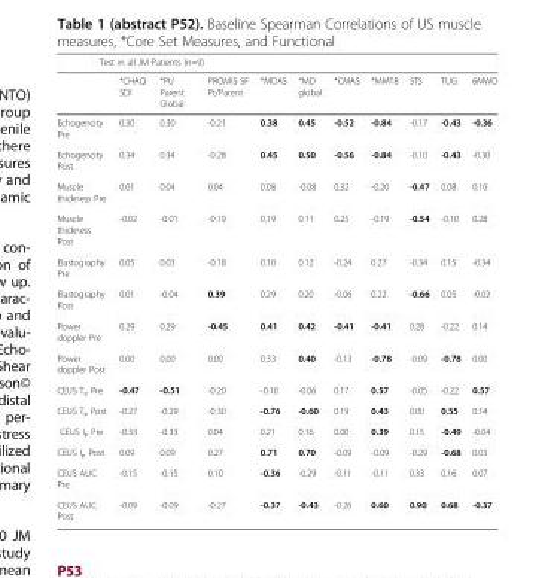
<table><thead><tr><td colspan="11">Test in all JM Patients (n=9)</td></tr><tr><td></td><td>*CHAQ SDI</td><td>*Pt/ Parent Global</td><td>PROMIS SF Pt/Parent</td><td>*MDAS</td><td>*MD global</td><td>*CMAS</td><td>*MMT8</td><td>STS</td><td>TUG</td><td>6MWD</td></tr></thead><tbody><tr><td>Echogencity Pre</td><td>0.30</td><td>0.30</td><td>-0.21</td><td>0.38</td><td>0.45</td><td>-0.52</td><td>-0.84</td><td>-0.17</td><td>-0.43</td><td>-0.36</td></tr><tr><td>Echogencity Post</td><td>0.34</td><td>0.34</td><td>-0.28</td><td>0.45</td><td>0.50</td><td>-0.56</td><td>-0.84</td><td>-0.10</td><td>-0.43</td><td>-0.30</td></tr><tr><td>Muscle thickness Pre</td><td>0.01</td><td>0.04</td><td>0.04</td><td>0.08</td><td>-0.08</td><td>0.32</td><td>-0.20</td><td>-0.47</td><td>0.08</td><td>0.10</td></tr><tr><td>Muscle thickness Post</td><td>-0.02</td><td>-0.01</td><td>-0.19</td><td>0.19</td><td>0.11</td><td>0.25</td><td>-0.19</td><td>-0.54</td><td>-0.10</td><td>0.28</td></tr><tr><td>Elastography Pre</td><td>0.05</td><td>0.03</td><td>-0.18</td><td>0.10</td><td>0.12</td><td>-0.24</td><td>0.27</td><td>-0.34</td><td>0.15</td><td>-0.34</td></tr><tr><td>Elastography Post</td><td>0.01</td><td>-0.04</td><td>0.39</td><td>0.29</td><td>0.20</td><td>-0.06</td><td>0.22</td><td>-0.66</td><td>0.05</td><td>-0.02</td></tr><tr><td>Power doppler Pre</td><td>0.29</td><td>0.29</td><td>-0.45</td><td>0.41</td><td>0.42</td><td>-0.41</td><td>-0.41</td><td>0.28</td><td>-0.22</td><td>0.14</td></tr><tr><td>Power doppler Post</td><td>0.00</td><td>0.00</td><td>0.00</td><td>0.33</td><td>0.40</td><td>-0.13</td><td>-0.78</td><td>-0.09</td><td>-0.78</td><td>0.00</td></tr><tr><td>CEUS T<sub>p</sub> Pre</td><td>-0.47</td><td>-0.51</td><td>-0.20</td><td>-0.10</td><td>-0.06</td><td>0.17</td><td>0.57</td><td>-0.05</td><td>-0.22</td><td>0.57</td></tr><tr><td>CEUS T<sub>p</sub> Post</td><td>-0.27</td><td>-0.29</td><td>-0.30</td><td>-0.76</td><td>-0.60</td><td>0.19</td><td>0.43</td><td>0.00</td><td>0.55</td><td>0.14</td></tr><tr><td>CEUS I<sub>p</sub> Pre</td><td>-0.33</td><td>-0.33</td><td>0.04</td><td>0.21</td><td>0.16</td><td>0.00</td><td>0.39</td><td>0.15</td><td>-0.49</td><td>-0.04</td></tr><tr><td>CEUS I<sub>p</sub> Post</td><td>0.09</td><td>0.09</td><td>0.27</td><td>0.71</td><td>0.70</td><td>-0.09</td><td>-0.09</td><td>-0.29</td><td>-0.68</td><td>0.03</td></tr><tr><td>CEUS AUC Pre</td><td>-0.15</td><td>-0.15</td><td>0.10</td><td>-0.36</td><td>-0.29</td><td>-0.11</td><td>-0.11</td><td>0.33</td><td>0.16</td><td>0.07</td></tr><tr><td>CEUS AUC Post</td><td>-0.09</td><td>-0.09</td><td>-0.27</td><td>-0.37</td><td>-0.43</td><td>-0.26</td><td>0.60</td><td>0.90</td><td>0.68</td><td>-0.37</td></tr></tbody></table>